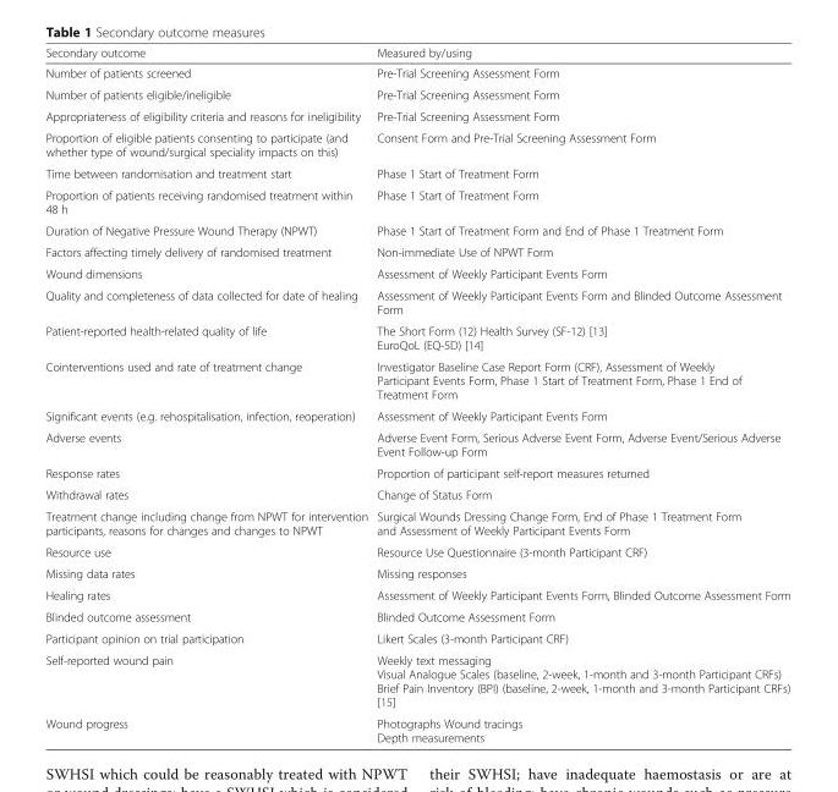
<table><thead><tr><td>Secondary outcome</td><td>Measured by/using</td></tr></thead><tbody><tr><td>Number of patients screened</td><td>Pre-Trial Screening Assessment Form</td></tr><tr><td>Number of patients eligible/ineligible</td><td>Pre-Trial Screening Assessment Form</td></tr><tr><td>Appropriateness of eligibility criteria and reasons for ineligibility</td><td>Pre-Trial Screening Assessment Form</td></tr><tr><td>Proportion of eligible patients consenting to participate (and whether type of wound/surgical speciality impacts on this)</td><td>Consent Form and Pre-Trial Screening Assessment Form</td></tr><tr><td>Time between randomisation and treatment start</td><td>Phase 1 Start of Treatment Form</td></tr><tr><td>Proportion of patients receiving randomised treatment within 48 h</td><td>Phase 1 Start of Treatment Form</td></tr><tr><td>Duration of Negative Pressure Wound Therapy (NPWT)</td><td>Phase 1 Start of Treatment Form and End of Phase 1 Treatment Form</td></tr><tr><td>Factors affecting timely delivery of randomised treatment</td><td>Non-immediate Use of NPWT Form</td></tr><tr><td>Wound dimensions</td><td>Assessment of Weekly Participant Events Form</td></tr><tr><td>Quality and completeness of data collected for date of healing</td><td>Assessment of Weekly Participant Events Form and Blinded Outcome Assessment Form</td></tr><tr><td>Patient-reported health-related quality of life</td><td>The Short Form (12) Health Survey (SF-12) [13] EuroQoL (EQ-5D) [14]</td></tr><tr><td>Cointerventions used and rate of treatment change</td><td>Investigator Baseline Case Report Form (CRF), Assessment of Weekly Participant Events Form, Phase 1 Start of Treatment Form, Phase 1 End of Treatment Form</td></tr><tr><td>Significant events (e.g. rehospitalisation, infection, reoperation)</td><td>Assessment of Weekly Participant Events Form</td></tr><tr><td>Adverse events</td><td>Adverse Event Form, Serious Adverse Event Form, Adverse Event/Serious Adverse Event Follow-up Form</td></tr><tr><td>Response rates</td><td>Proportion of participant self-report measures returned</td></tr><tr><td>Withdrawal rates</td><td>Change of Status Form</td></tr><tr><td>Treatment change including change from NPWT for intervention participants, reasons for changes and changes to NPWT</td><td>Surgical Wounds Dressing Change Form, End of Phase 1 Treatment Form and Assessment of Weekly Participant Events Form</td></tr><tr><td>Resource use</td><td>Resource Use Questionnaire (3-month Participant CRF)</td></tr><tr><td>Missing data rates</td><td>Missing responses</td></tr><tr><td>Healing rates</td><td>Assessment of Weekly Participant Events Form, Blinded Outcome Assessment Form</td></tr><tr><td>Blinded outcome assessment</td><td>Blinded Outcome Assessment Form</td></tr><tr><td>Participant opinion on trial participation</td><td>Likert Scales (3-month Participant CRF)</td></tr><tr><td>Self-reported wound pain</td><td>Weekly text messaging Visual Analogue Scales (baseline, 2-week, 1-month and 3-month Participant CRFs) Brief Pain Inventory (BPI) (baseline, 2-week, 1-month and 3-month Participant CRFs) [15]</td></tr><tr><td>Wound progress</td><td>Photographs Wound tracings Depth measurements</td></tr></tbody></table>